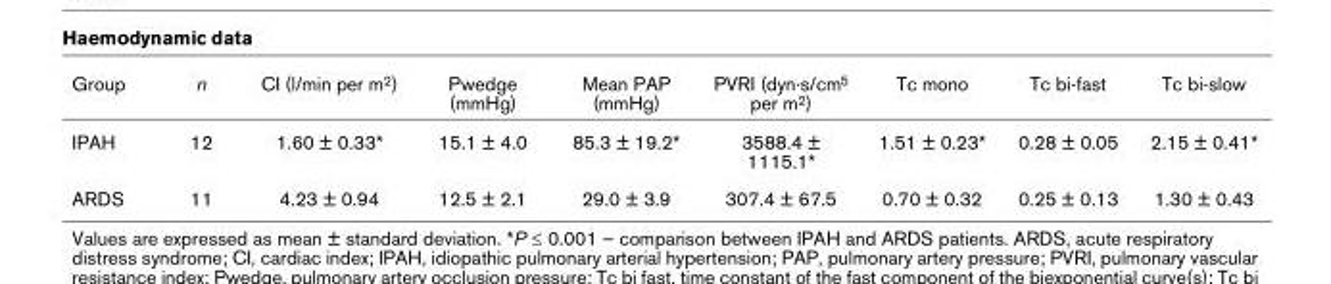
<table><thead><tr><td>Group</td><td>n</td><td>CI (l/min per m2)</td><td>Pwedge (mmHg)</td><td>Mean PAP (mmHg)</td><td>PVRI (dyn·s/cm5 per m2)</td><td>Tc mono</td><td>Tc bi-fast</td><td>Tc bi-slow</td></tr></thead><tbody><tr><td>IPAH</td><td>12</td><td>1.60 ± 0.33*</td><td>15.1 ± 4.0</td><td>85.3 ± 19.2*</td><td>3588.4 ± 1115.1*</td><td>1.51 ± 0.23*</td><td>0.28 ± 0.05</td><td>2.15 ± 0.41*</td></tr><tr><td>ARDS</td><td>11</td><td>4.23 ± 0.94</td><td>12.5 ± 2.1</td><td>29.0 ± 3.9</td><td>307.4 ± 67.5</td><td>0.70 ± 0.32</td><td>0.25 ± 0.13</td><td>1.30 ± 0.43</td></tr></tbody></table>